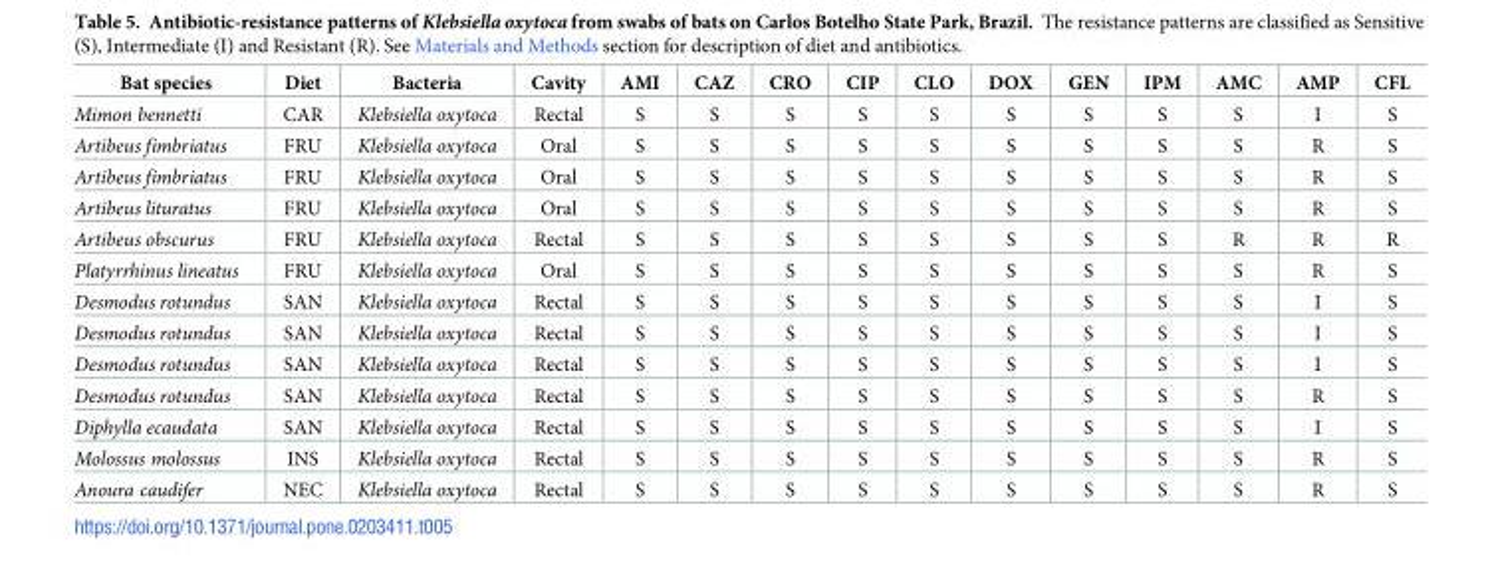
<table><thead><tr><td>Bat species</td><td>Diet</td><td>Bacteria</td><td>Cavity</td><td>AMI</td><td>CAZ</td><td>CRO</td><td>CIP</td><td>CLO</td><td>DOX</td><td>GEN</td><td>IPM</td><td>AMC</td><td>AMP</td><td>CFL</td></tr></thead><tbody><tr><td>Mimon bennetti</td><td>CAR</td><td>Klebsiella oxytoca</td><td>Rectal</td><td>S</td><td>S</td><td>S</td><td>S</td><td>S</td><td>S</td><td>S</td><td>S</td><td>S</td><td>I</td><td>S</td></tr><tr><td>Artibeus fimbriatus</td><td>FRU</td><td>Klebsiella oxytoca</td><td>Oral</td><td>S</td><td>S</td><td>S</td><td>S</td><td>S</td><td>S</td><td>S</td><td>S</td><td>S</td><td>R</td><td>S</td></tr><tr><td>Artibeus fimbriatus</td><td>FRU</td><td>Klebsiella oxytoca</td><td>Oral</td><td>S</td><td>S</td><td>S</td><td>S</td><td>S</td><td>S</td><td>S</td><td>S</td><td>S</td><td>R</td><td>S</td></tr><tr><td>Artibeus lituratus</td><td>FRU</td><td>Klebsiella oxytoca</td><td>Oral</td><td>S</td><td>S</td><td>S</td><td>S</td><td>S</td><td>S</td><td>S</td><td>S</td><td>S</td><td>R</td><td>S</td></tr><tr><td>Artibeus obscurus</td><td>FRU</td><td>Klebsiella oxytoca</td><td>Rectal</td><td>S</td><td>S</td><td>S</td><td>S</td><td>S</td><td>S</td><td>S</td><td>S</td><td>R</td><td>R</td><td>R</td></tr><tr><td>Platyrrhinus lineatus</td><td>FRU</td><td>Klebsiella oxytoca</td><td>Oral</td><td>S</td><td>S</td><td>S</td><td>S</td><td>S</td><td>S</td><td>S</td><td>S</td><td>S</td><td>R</td><td>S</td></tr><tr><td>Desmodus rotundus</td><td>SAN</td><td>Klebsiella oxytoca</td><td>Rectal</td><td>S</td><td>S</td><td>S</td><td>S</td><td>S</td><td>S</td><td>S</td><td>S</td><td>S</td><td>I</td><td>S</td></tr><tr><td>Desmodus rotundus</td><td>SAN</td><td>Klebsiella oxytoca</td><td>Rectal</td><td>S</td><td>S</td><td>S</td><td>S</td><td>S</td><td>S</td><td>S</td><td>S</td><td>S</td><td>I</td><td>S</td></tr><tr><td>Desmodus rotundus</td><td>SAN</td><td>Klebsiella oxytoca</td><td>Rectal</td><td>S</td><td>S</td><td>S</td><td>S</td><td>S</td><td>S</td><td>S</td><td>S</td><td>S</td><td>I</td><td>S</td></tr><tr><td>Desmodus rotundus</td><td>SAN</td><td>Klebsiella oxytoca</td><td>Rectal</td><td>S</td><td>S</td><td>S</td><td>S</td><td>S</td><td>S</td><td>S</td><td>S</td><td>S</td><td>R</td><td>S</td></tr><tr><td>Diphylla ecaudata</td><td>SAN</td><td>Klebsiella oxytoca</td><td>Rectal</td><td>S</td><td>S</td><td>S</td><td>S</td><td>S</td><td>S</td><td>S</td><td>S</td><td>S</td><td>I</td><td>S</td></tr><tr><td>Molossus molossus</td><td>INS</td><td>Klebsiella oxytoca</td><td>Rectal</td><td>S</td><td>S</td><td>S</td><td>S</td><td>S</td><td>S</td><td>S</td><td>S</td><td>S</td><td>R</td><td>S</td></tr><tr><td>Anoura caudifer</td><td>NEC</td><td>Klebsiella oxytoca</td><td>Rectal</td><td>S</td><td>S</td><td>S</td><td>S</td><td>S</td><td>S</td><td>S</td><td>S</td><td>S</td><td>R</td><td>S</td></tr></tbody></table>